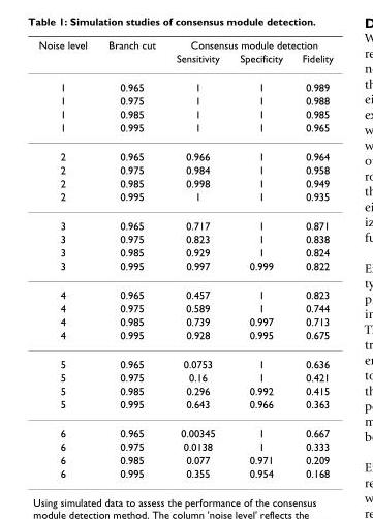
<table><thead><tr><td rowspan="2">Noise level</td><td rowspan="2">Branch cut</td><td colspan="3">Consensus module detection</td></tr><tr><td>Sensitivity</td><td>Specificity</td><td>Fidelity</td></tr></thead><tbody><tr><td>1</td><td>0.965</td><td>1</td><td>1</td><td>0.989</td></tr><tr><td>1</td><td>0.975</td><td>1</td><td>1</td><td>0.988</td></tr><tr><td>1</td><td>0.985</td><td>1</td><td>1</td><td>0.985</td></tr><tr><td>1</td><td>0.995</td><td>1</td><td>1</td><td>0.965</td></tr><tr><td>2</td><td>0.965</td><td>0.966</td><td>1</td><td>0.964</td></tr><tr><td>2</td><td>0.975</td><td>0.984</td><td>1</td><td>0.958</td></tr><tr><td>2</td><td>0.985</td><td>0.998</td><td>1</td><td>0.949</td></tr><tr><td>2</td><td>0.995</td><td>1</td><td>1</td><td>0.935</td></tr><tr><td>3</td><td>0.965</td><td>0.717</td><td>1</td><td>0.871</td></tr><tr><td>3</td><td>0.975</td><td>0.823</td><td>1</td><td>0.838</td></tr><tr><td>3</td><td>0.985</td><td>0.929</td><td>1</td><td>0.824</td></tr><tr><td>3</td><td>0.995</td><td>0.997</td><td>0.999</td><td>0.822</td></tr><tr><td>4</td><td>0.965</td><td>0.457</td><td>1</td><td>0.823</td></tr><tr><td>4</td><td>0.975</td><td>0.589</td><td>1</td><td>0.744</td></tr><tr><td>4</td><td>0.985</td><td>0.739</td><td>0.997</td><td>0.713</td></tr><tr><td>4</td><td>0.995</td><td>0.928</td><td>0.995</td><td>0.675</td></tr><tr><td>5</td><td>0.965</td><td>0.0753</td><td>1</td><td>0.636</td></tr><tr><td>5</td><td>0.975</td><td>0.16</td><td>1</td><td>0.421</td></tr><tr><td>5</td><td>0.985</td><td>0.296</td><td>0.992</td><td>0.415</td></tr><tr><td>5</td><td>0.995</td><td>0.643</td><td>0.966</td><td>0.363</td></tr><tr><td>6</td><td>0.965</td><td>0.00345</td><td>1</td><td>0.667</td></tr><tr><td>6</td><td>0.975</td><td>0.0138</td><td>1</td><td>0.333</td></tr><tr><td>6</td><td>0.985</td><td>0.077</td><td>0.971</td><td>0.209</td></tr><tr><td>6</td><td>0.995</td><td>0.355</td><td>0.954</td><td>0.168</td></tr></tbody></table>